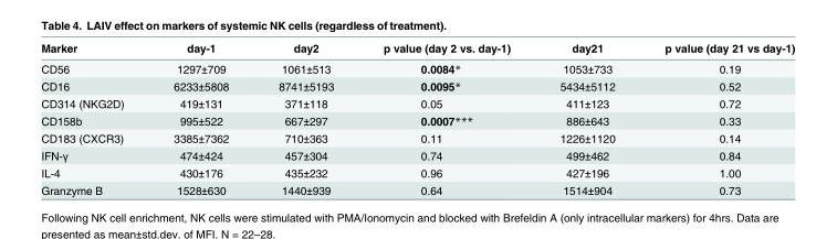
<table><thead><tr><td>Marker</td><td>day-1</td><td>day2</td><td>p value (day 2 vs. day-1)</td><td>day21</td><td>p value (day 21 vs day-1)</td></tr></thead><tbody><tr><td>CD56</td><td>1297±709</td><td>1061±513</td><td>0.0084*</td><td>1053±733</td><td>0.19</td></tr><tr><td>CD16</td><td>6233±5808</td><td>8741±5193</td><td>0.0095*</td><td>5434±5112</td><td>0.52</td></tr><tr><td>CD314 (NKG2D)</td><td>419±131</td><td>371±118</td><td>0.05</td><td>411±123</td><td>0.72</td></tr><tr><td>CD158b</td><td>995±522</td><td>667±297</td><td>0.0007***</td><td>886±643</td><td>0.33</td></tr><tr><td>CD183 (CXCR3)</td><td>3385±7362</td><td>710±363</td><td>0.11</td><td>1226±1120</td><td>0.14</td></tr><tr><td>IFN-γ</td><td>474±424</td><td>457±304</td><td>0.74</td><td>499±462</td><td>0.84</td></tr><tr><td>IL-4</td><td>430±176</td><td>435±232</td><td>0.96</td><td>427±196</td><td>1.00</td></tr><tr><td>Granzyme B</td><td>1528±630</td><td>1440±939</td><td>0.64</td><td>1514±904</td><td>0.73</td></tr></tbody></table>